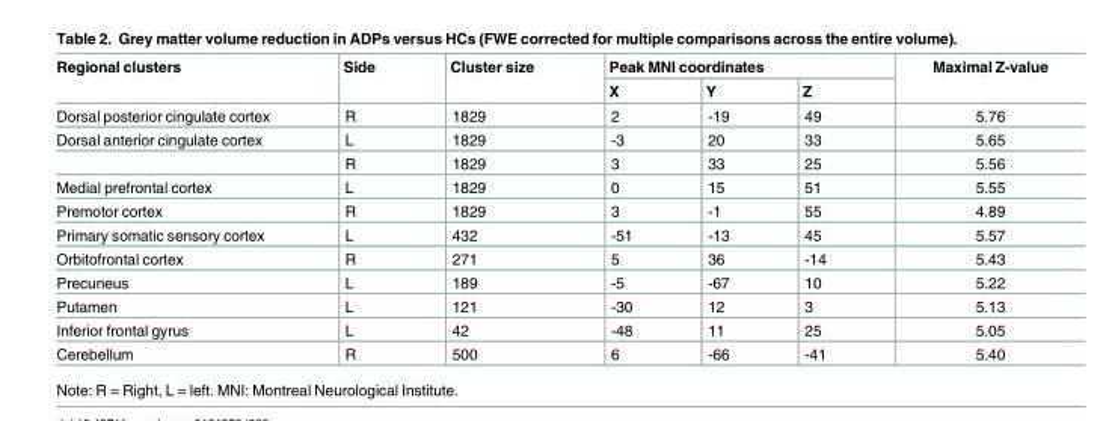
<table><thead><tr><td rowspan="2">Regional clusters</td><td rowspan="2">Side</td><td rowspan="2">Cluster size</td><td colspan="3">Peak MNI coordinates</td><td rowspan="2">Maximal Z-value</td></tr><tr><td>X</td><td>Y</td><td>Z</td></tr></thead><tbody><tr><td>Dorsal posterior cingulate cortex</td><td>R</td><td>1829</td><td>2</td><td>-19</td><td>49</td><td>5.76</td></tr><tr><td rowspan="2">Dorsal anterior cingulate cortex</td><td>L</td><td>1829</td><td>-3</td><td>20</td><td>33</td><td>5.65</td></tr><tr><td>R</td><td>1829</td><td>3</td><td>33</td><td>25</td><td>5.56</td></tr><tr><td>Medial prefrontal cortex</td><td>L</td><td>1829</td><td>0</td><td>15</td><td>51</td><td>5.55</td></tr><tr><td>Premotor cortex</td><td>R</td><td>1829</td><td>3</td><td>-1</td><td>55</td><td>4.89</td></tr><tr><td>Primary somatic sensory cortex</td><td>L</td><td>432</td><td>-51</td><td>-13</td><td>45</td><td>5.57</td></tr><tr><td>Orbitofrontal cortex</td><td>R</td><td>271</td><td>5</td><td>36</td><td>-14</td><td>5.43</td></tr><tr><td>Precuneus</td><td>L</td><td>189</td><td>-5</td><td>-67</td><td>10</td><td>5.22</td></tr><tr><td>Putamen</td><td>L</td><td>121</td><td>-30</td><td>12</td><td>3</td><td>5.13</td></tr><tr><td>Inferior frontal gyrus</td><td>L</td><td>42</td><td>-48</td><td>11</td><td>25</td><td>5.05</td></tr><tr><td>Cerebellum</td><td>R</td><td>500</td><td>6</td><td>-66</td><td>-41</td><td>5.40</td></tr></tbody></table>